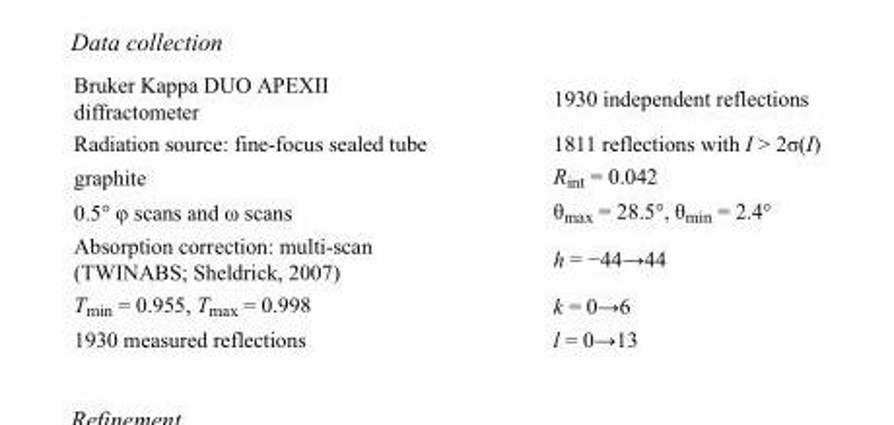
<table><tbody><tr><td>Bruker Kappa DUO APEXII diffractometer</td><td>1930 independent reflections</td></tr><tr><td>Radiation source: fine-focus sealed tube</td><td>1811 reflections with I &gt; 2σ(I)</td></tr><tr><td>graphite</td><td>R<sub>int</sub> = 0.042</td></tr><tr><td>0.5° φ scans and ω scans</td><td>θ<sub>max</sub> = 28.5°, θ<sub>min</sub> = 2.4°</td></tr><tr><td>Absorption correction: multi-scan (TWINABS; Sheldrick, 2007)</td><td>h = −44→44</td></tr><tr><td>T<sub>min</sub> = 0.955, T<sub>max</sub> = 0.998</td><td>k = 0→6</td></tr><tr><td>1930 measured reflections</td><td>l = 0→13</td></tr></tbody></table>